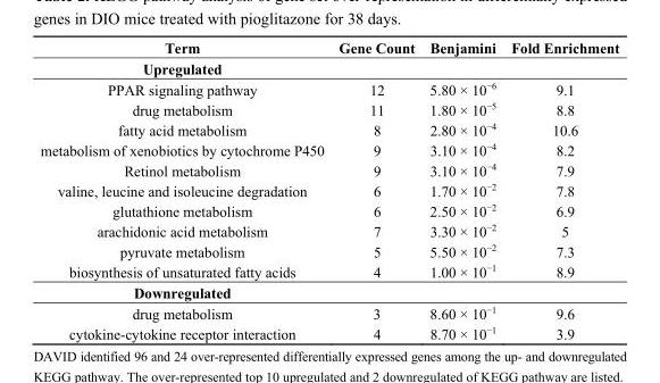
<table><thead><tr><td>Term</td><td>Gene Count</td><td>Benjamini</td><td>Fold Enrichment</td></tr></thead><tbody><tr><td colspan="4">Upregulated</td></tr><tr><td>PPAR signaling pathway</td><td>12</td><td>5.80 × 10<sup>−6</sup></td><td>9.1</td></tr><tr><td>drug metabolism</td><td>11</td><td>1.80 × 10<sup>−5</sup></td><td>8.8</td></tr><tr><td>fatty acid metabolism</td><td>8</td><td>2.80 × 10<sup>−4</sup></td><td>10.6</td></tr><tr><td>metabolism of xenobiotics by cytochrome P450</td><td>9</td><td>3.10 × 10<sup>−4</sup></td><td>8.2</td></tr><tr><td>Retinol metabolism</td><td>9</td><td>3.10 × 10<sup>−4</sup></td><td>7.9</td></tr><tr><td>valine, leucine and isoleucine degradation</td><td>6</td><td>1.70 × 10<sup>−2</sup></td><td>7.8</td></tr><tr><td>glutathione metabolism</td><td>6</td><td>2.50 × 10<sup>−2</sup></td><td>6.9</td></tr><tr><td>arachidonic acid metabolism</td><td>7</td><td>3.30 × 10<sup>−2</sup></td><td>5</td></tr><tr><td>pyruvate metabolism</td><td>5</td><td>5.50 × 10<sup>−2</sup></td><td>7.3</td></tr><tr><td>biosynthesis of unsaturated fatty acids</td><td>4</td><td>1.00 × 10<sup>−1</sup></td><td>8.9</td></tr><tr><td colspan="4">Downregulated</td></tr><tr><td>drug metabolism</td><td>3</td><td>8.60 × 10<sup>−1</sup></td><td>9.6</td></tr><tr><td>cytokine-cytokine receptor interaction</td><td>4</td><td>8.70 × 10<sup>−1</sup></td><td>3.9</td></tr></tbody></table>